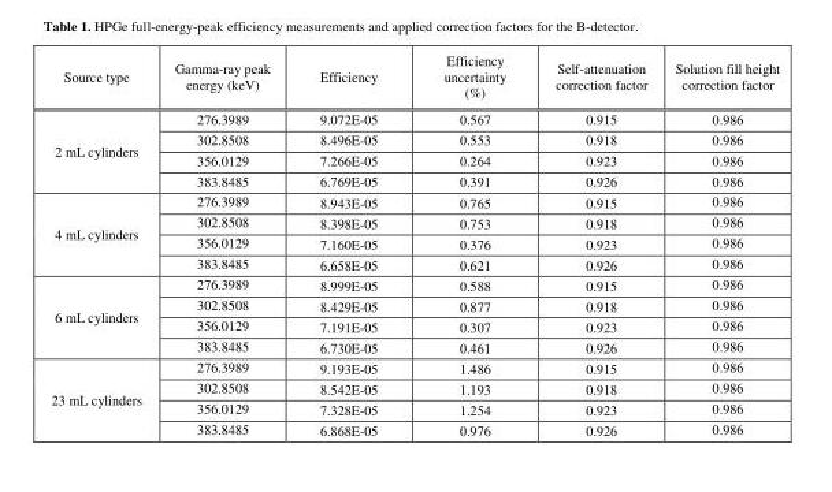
<table><thead><tr><td>Source type</td><td>Gamma-ray peak energy (keV)</td><td>Efficiency</td><td>Efficiency uncertainty (%)</td><td>Self-attenuation correction factor</td><td>Solution fill height correction factor</td></tr></thead><tbody><tr><td rowspan="4">2 mL cylinders</td><td>276.3989</td><td>9.072E-05</td><td>0.567</td><td>0.915</td><td>0.986</td></tr><tr><td>302.8508</td><td>8.496E-05</td><td>0.553</td><td>0.918</td><td>0.986</td></tr><tr><td>356.0129</td><td>7.266E-05</td><td>0.264</td><td>0.923</td><td>0.986</td></tr><tr><td>383.8485</td><td>6.769E-05</td><td>0.391</td><td>0.926</td><td>0.986</td></tr><tr><td rowspan="4">4 mL cylinders</td><td>276.3989</td><td>8.943E-05</td><td>0.765</td><td>0.915</td><td>0.986</td></tr><tr><td>302.8508</td><td>8.398E-05</td><td>0.753</td><td>0.918</td><td>0.986</td></tr><tr><td>356.0129</td><td>7.160E-05</td><td>0.376</td><td>0.923</td><td>0.986</td></tr><tr><td>383.8485</td><td>6.658E-05</td><td>0.621</td><td>0.926</td><td>0.986</td></tr><tr><td rowspan="4">6 mL cylinders</td><td>276.3989</td><td>8.999E-05</td><td>0.588</td><td>0.915</td><td>0.986</td></tr><tr><td>302.8508</td><td>8.429E-05</td><td>0.877</td><td>0.918</td><td>0.986</td></tr><tr><td>356.0129</td><td>7.191E-05</td><td>0.307</td><td>0.923</td><td>0.986</td></tr><tr><td>383.8485</td><td>6.730E-05</td><td>0.461</td><td>0.926</td><td>0.986</td></tr><tr><td rowspan="4">23 mL cylinders</td><td>276.3989</td><td>9.193E-05</td><td>1.486</td><td>0.915</td><td>0.986</td></tr><tr><td>302.8508</td><td>8.542E-05</td><td>1.193</td><td>0.918</td><td>0.986</td></tr><tr><td>356.0129</td><td>7.328E-05</td><td>1.254</td><td>0.923</td><td>0.986</td></tr><tr><td>383.8485</td><td>6.868E-05</td><td>0.976</td><td>0.926</td><td>0.986</td></tr></tbody></table>